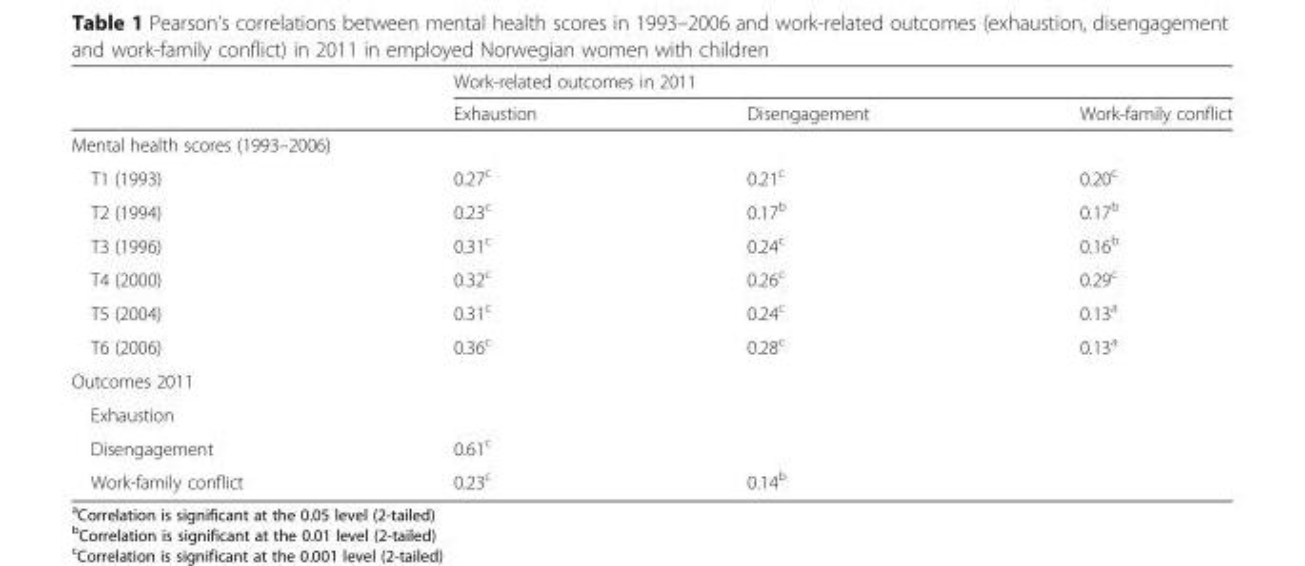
<table><thead><tr><td rowspan="2"></td><td colspan="3">Work-related outcomes in 2011</td></tr><tr><td>Exhaustion</td><td>Disengagement</td><td>Work-family conflict</td></tr></thead><tbody><tr><td colspan="4">Mental health scores (1993–2006)</td></tr><tr><td>T1 (1993)</td><td>0.27<sup>c</sup></td><td>0.21<sup>c</sup></td><td>0.20<sup>c</sup></td></tr><tr><td>T2 (1994)</td><td>0.23<sup>c</sup></td><td>0.17<sup>b</sup></td><td>0.17<sup>b</sup></td></tr><tr><td>T3 (1996)</td><td>0.31<sup>c</sup></td><td>0.24<sup>c</sup></td><td>0.16<sup>b</sup></td></tr><tr><td>T4 (2000)</td><td>0.32<sup>c</sup></td><td>0.26<sup>c</sup></td><td>0.29<sup>c</sup></td></tr><tr><td>T5 (2004)</td><td>0.31<sup>c</sup></td><td>0.24<sup>c</sup></td><td>0.13<sup>a</sup></td></tr><tr><td>T6 (2006)</td><td>0.36<sup>c</sup></td><td>0.28<sup>c</sup></td><td>0.13<sup>a</sup></td></tr><tr><td colspan="4">Outcomes 2011</td></tr><tr><td colspan="4">Exhaustion</td></tr><tr><td>Disengagement</td><td>0.61<sup>c</sup></td><td></td><td></td></tr><tr><td>Work-family conflict</td><td>0.23<sup>c</sup></td><td>0.14<sup>b</sup></td><td></td></tr></tbody></table>